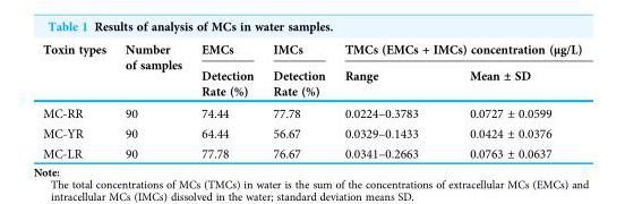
<table><thead><tr><td rowspan="2">Toxin types</td><td rowspan="2">Number of samples</td><td rowspan="2">EMCs Detection Rate (%)</td><td rowspan="2">IMCs Detection Rate (%)</td><td colspan="2">TMCs (EMCs + IMCs) concentration (μg/L)</td></tr><tr><td>Range</td><td>Mean ± SD</td></tr></thead><tbody><tr><td>MC-RR</td><td>90</td><td>74.44</td><td>77.78</td><td>0.0224–0.3783</td><td>0.0727 ± 0.0599</td></tr><tr><td>MC-YR</td><td>90</td><td>64.44</td><td>56.67</td><td>0.0329–0.1433</td><td>0.0424 ± 0.0376</td></tr><tr><td>MC-LR</td><td>90</td><td>77.78</td><td>76.67</td><td>0.0341–0.2663</td><td>0.0763 ± 0.0637</td></tr></tbody></table>